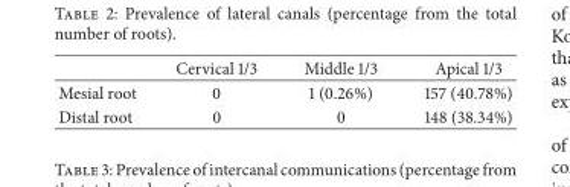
<table><thead><tr><td></td><td>Cervical 1/3</td><td>Middle 1/3</td><td>Apical 1/3</td></tr></thead><tbody><tr><td>Mesial root</td><td>0</td><td>1 (0.26%)</td><td>157 (40.78%)</td></tr><tr><td>Distal root</td><td>0</td><td>0</td><td>148 (38.34%)</td></tr></tbody></table>